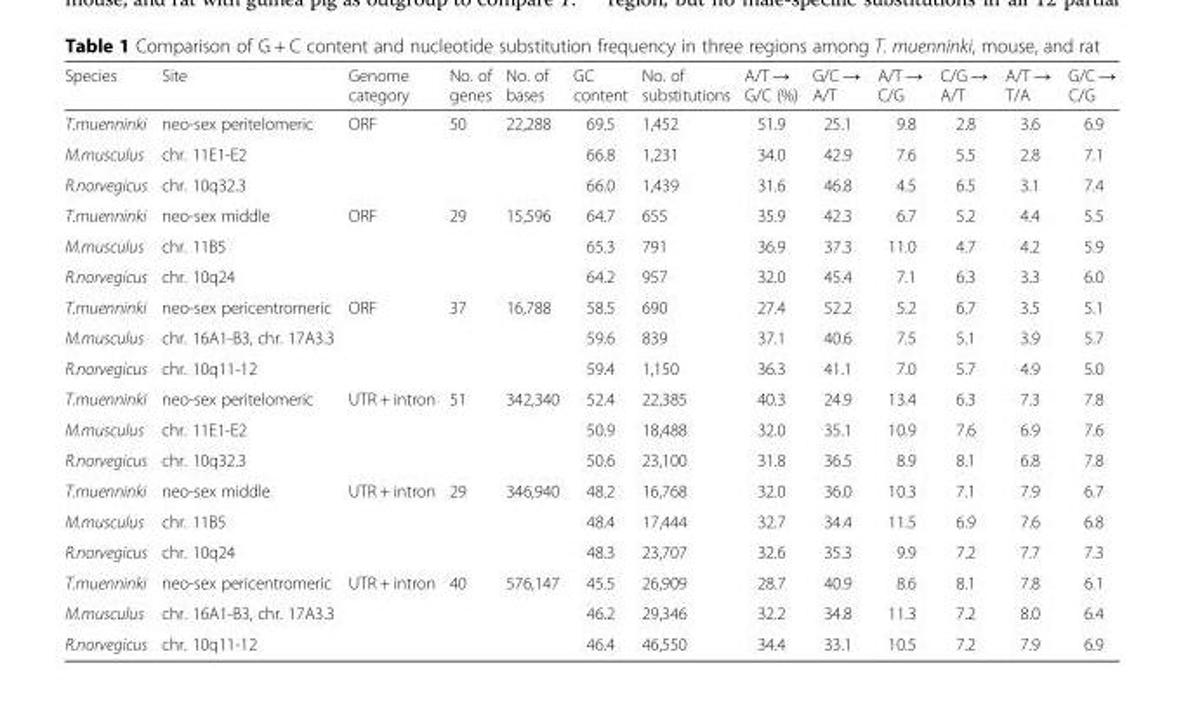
<table><thead><tr><td>Species</td><td>Site</td><td>Genome category</td><td>No. of genes</td><td>No. of bases</td><td>GC content</td><td>No. of substitutions</td><td>A/T → G/C (%)</td><td>G/C → A/T</td><td>A/T → C/G</td><td>C/G → A/T</td><td>A/T → T/A</td><td>G/C → C/G</td></tr></thead><tbody><tr><td>T.muenninki</td><td>neo-sex peritelomeric</td><td>ORF</td><td>50</td><td>22,288</td><td>69.5</td><td>1,452</td><td>51.9</td><td>25.1</td><td>9.8</td><td>2.8</td><td>3.6</td><td>6.9</td></tr><tr><td>M.musculus</td><td>chr. 11E1-E2</td><td></td><td></td><td></td><td>66.8</td><td>1,231</td><td>34.0</td><td>42.9</td><td>7.6</td><td>5.5</td><td>2.8</td><td>7.1</td></tr><tr><td>R.norvegicus</td><td>chr. 10q32.3</td><td></td><td></td><td></td><td>66.0</td><td>1,439</td><td>31.6</td><td>46.8</td><td>4.5</td><td>6.5</td><td>3.1</td><td>7.4</td></tr><tr><td>T.muenninki</td><td>neo-sex middle</td><td>ORF</td><td>29</td><td>15,596</td><td>64.7</td><td>655</td><td>35.9</td><td>42.3</td><td>6.7</td><td>5.2</td><td>4.4</td><td>5.5</td></tr><tr><td>M.musculus</td><td>chr. 11B5</td><td></td><td></td><td></td><td>65.3</td><td>791</td><td>36.9</td><td>37.3</td><td>11.0</td><td>4.7</td><td>4.2</td><td>5.9</td></tr><tr><td>R.norvegicus</td><td>chr. 10q24</td><td></td><td></td><td></td><td>64.2</td><td>957</td><td>32.0</td><td>45.4</td><td>7.1</td><td>6.3</td><td>3.3</td><td>6.0</td></tr><tr><td>T.muenninki</td><td>neo-sex pericentromeric</td><td>ORF</td><td>37</td><td>16,788</td><td>58.5</td><td>690</td><td>27.4</td><td>52.2</td><td>5.2</td><td>6.7</td><td>3.5</td><td>5.1</td></tr><tr><td>M.musculus</td><td>chr. 16A1-B3, chr. 17A3.3</td><td></td><td></td><td></td><td>59.6</td><td>839</td><td>37.1</td><td>40.6</td><td>7.5</td><td>5.1</td><td>3.9</td><td>5.7</td></tr><tr><td>R.norvegicus</td><td>chr. 10q11-12</td><td></td><td></td><td></td><td>59.4</td><td>1,150</td><td>36.3</td><td>41.1</td><td>7.0</td><td>5.7</td><td>4.9</td><td>5.0</td></tr><tr><td>T.muenninki</td><td>neo-sex peritelomeric</td><td>UTR + intron</td><td>51</td><td>342,340</td><td>52.4</td><td>22,385</td><td>40.3</td><td>24.9</td><td>13.4</td><td>6.3</td><td>7.3</td><td>7.8</td></tr><tr><td>M.musculus</td><td>chr. 11E1-E2</td><td></td><td></td><td></td><td>50.9</td><td>18,488</td><td>32.0</td><td>35.1</td><td>10.9</td><td>7.6</td><td>6.9</td><td>7.6</td></tr><tr><td>R.norvegicus</td><td>chr. 10q32.3</td><td></td><td></td><td></td><td>50.6</td><td>23,100</td><td>31.8</td><td>36.5</td><td>8.9</td><td>8.1</td><td>6.8</td><td>7.8</td></tr><tr><td>T.muenninki</td><td>neo-sex middle</td><td>UTR + intron</td><td>29</td><td>346,940</td><td>48.2</td><td>16,768</td><td>32.0</td><td>36.0</td><td>10.3</td><td>7.1</td><td>7.9</td><td>6.7</td></tr><tr><td>M.musculus</td><td>chr. 11B5</td><td></td><td></td><td></td><td>48.4</td><td>17,444</td><td>32.7</td><td>34.4</td><td>11.5</td><td>6.9</td><td>7.6</td><td>6.8</td></tr><tr><td>R.norvegicus</td><td>chr. 10q24</td><td></td><td></td><td></td><td>48.3</td><td>23,707</td><td>32.6</td><td>35.3</td><td>9.9</td><td>7.2</td><td>7.7</td><td>7.3</td></tr><tr><td>T.muenninki</td><td>neo-sex pericentromeric</td><td>UTR + intron</td><td>40</td><td>576,147</td><td>45.5</td><td>26,909</td><td>28.7</td><td>40.9</td><td>8.6</td><td>8.1</td><td>7.8</td><td>6.1</td></tr><tr><td>M.musculus</td><td>chr. 16A1-B3, chr. 17A3.3</td><td></td><td></td><td></td><td>46.2</td><td>29,346</td><td>32.2</td><td>34.8</td><td>11.3</td><td>7.2</td><td>8.0</td><td>6.4</td></tr><tr><td>R.norvegicus</td><td>chr. 10q11-12</td><td></td><td></td><td></td><td>46.4</td><td>46,550</td><td>34.4</td><td>33.1</td><td>10.5</td><td>7.2</td><td>7.9</td><td>6.9</td></tr></tbody></table>